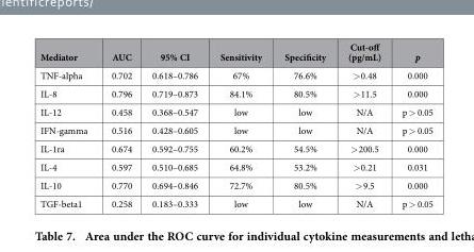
<table><thead><tr><td>Mediator</td><td>AUC</td><td>95% CI</td><td>Sensitivity</td><td>Specificity</td><td>Cut-off (pg/mL)</td><td>p</td></tr></thead><tbody><tr><td>TNF-alpha</td><td>0.702</td><td>0.618–0.786</td><td>67%</td><td>76.6%</td><td>&gt; 0.48</td><td>0.000</td></tr><tr><td>IL-8</td><td>0.796</td><td>0.719–0.873</td><td>84.1%</td><td>80.5%</td><td>&gt; 11.5</td><td>0.000</td></tr><tr><td>IL-12</td><td>0.458</td><td>0.368–0.547</td><td>low</td><td>low</td><td>N/A</td><td>p &gt; 0.05</td></tr><tr><td>IFN-gamma</td><td>0.516</td><td>0.428–0.605</td><td>low</td><td>low</td><td>N/A</td><td>p &gt; 0.05</td></tr><tr><td>IL-1ra</td><td>0.674</td><td>0.592–0.755</td><td>60.2%</td><td>54.5%</td><td>&gt; 200.5</td><td>0.000</td></tr><tr><td>IL-4</td><td>0.597</td><td>0.510–0.685</td><td>64.8%</td><td>53.2%</td><td>&gt; 0.21</td><td>0.031</td></tr><tr><td>IL-10</td><td>0.770</td><td>0.694–0.846</td><td>72.7%</td><td>80.5%</td><td>&gt; 9.5</td><td>0.000</td></tr><tr><td>TGF-beta1</td><td>0.258</td><td>0.183–0.333</td><td>low</td><td>low</td><td>N/A</td><td>p &gt; 0.05</td></tr></tbody></table>